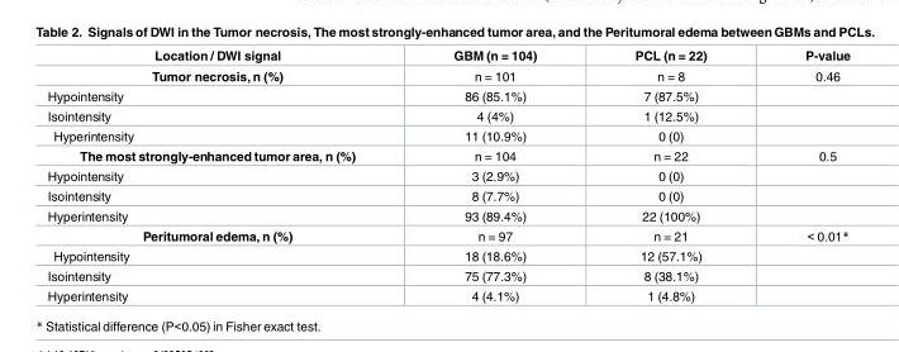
<table><thead><tr><td>Location / DWI signal</td><td>GBM (n = 104)</td><td>PCL (n = 22)</td><td>P-value</td></tr></thead><tbody><tr><td>Tumor necrosis, n (%)</td><td>n = 101</td><td>n = 8</td><td>0.46</td></tr><tr><td>Hypointensity</td><td>86 (85.1%)</td><td>7 (87.5%)</td><td></td></tr><tr><td>Isointensity</td><td>4 (4%)</td><td>1 (12.5%)</td><td></td></tr><tr><td>Hyperintensity</td><td>11 (10.9%)</td><td>0 (0)</td><td></td></tr><tr><td>The most strongly-enhanced tumor area, n (%)</td><td>n = 104</td><td>n = 22</td><td>0.5</td></tr><tr><td>Hypointensity</td><td>3 (2.9%)</td><td>0 (0)</td><td></td></tr><tr><td>Isointensity</td><td>8 (7.7%)</td><td>0 (0)</td><td></td></tr><tr><td>Hyperintensity</td><td>93 (89.4%)</td><td>22 (100%)</td><td></td></tr><tr><td>Peritumoral edema, n (%)</td><td>n = 97</td><td>n = 21</td><td>&lt; 0.01*</td></tr><tr><td>Hypointensity</td><td>18 (18.6%)</td><td>12 (57.1%)</td><td></td></tr><tr><td>Isointensity</td><td>75 (77.3%)</td><td>8 (38.1%)</td><td></td></tr><tr><td>Hyperintensity</td><td>4 (4.1%)</td><td>1 (4.8%)</td><td></td></tr></tbody></table>